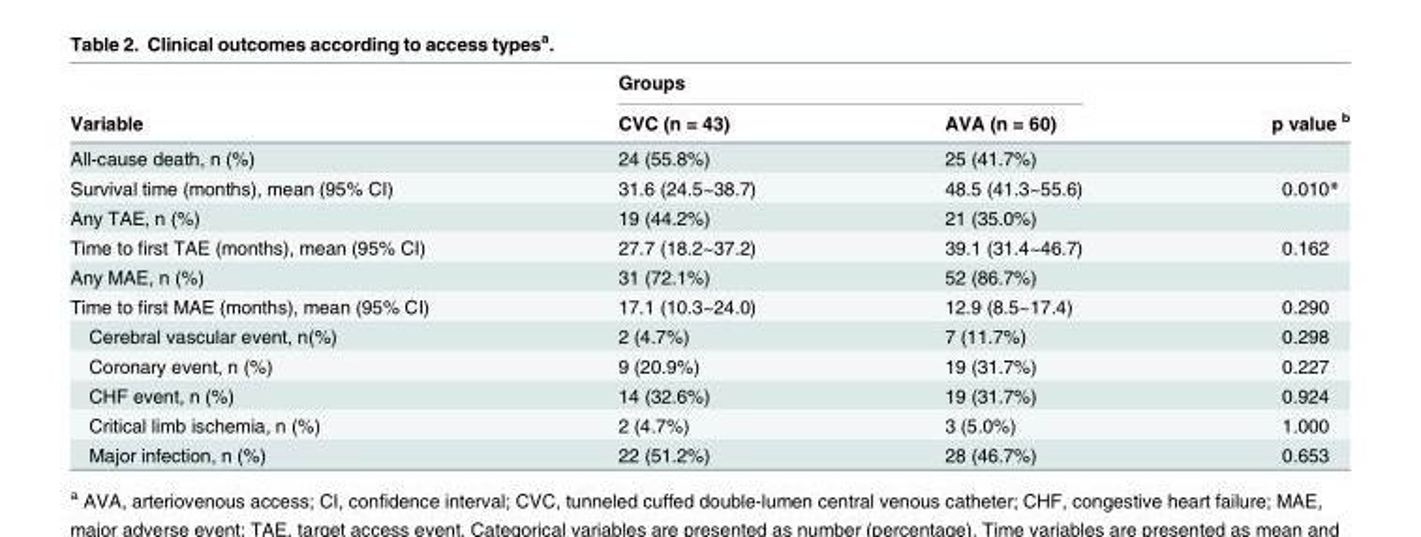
<table><thead><tr><td rowspan="2">Variable</td><td colspan="2">Groups</td><td rowspan="2">p value <sup>b</sup></td></tr><tr><td>CVC (n = 43)</td><td>AVA (n = 60)</td></tr></thead><tbody><tr><td>All-cause death, n (%)</td><td>24 (55.8%)</td><td>25 (41.7%)</td><td></td></tr><tr><td>Survival time (months), mean (95% CI)</td><td>31.6 (24.5~38.7)</td><td>48.5 (41.3~55.6)</td><td>0.010*</td></tr><tr><td>Any TAE, n (%)</td><td>19 (44.2%)</td><td>21 (35.0%)</td><td></td></tr><tr><td>Time to first TAE (months), mean (95% CI)</td><td>27.7 (18.2~37.2)</td><td>39.1 (31.4~46.7)</td><td>0.162</td></tr><tr><td>Any MAE, n (%)</td><td>31 (72.1%)</td><td>52 (86.7%)</td><td></td></tr><tr><td>Time to first MAE (months), mean (95% CI)</td><td>17.1 (10.3~24.0)</td><td>12.9 (8.5~17.4)</td><td>0.290</td></tr><tr><td>Cerebral vascular event, n(%)</td><td>2 (4.7%)</td><td>7 (11.7%)</td><td>0.298</td></tr><tr><td>Coronary event, n (%)</td><td>9 (20.9%)</td><td>19 (31.7%)</td><td>0.227</td></tr><tr><td>CHF event, n (%)</td><td>14 (32.6%)</td><td>19 (31.7%)</td><td>0.924</td></tr><tr><td>Critical limb ischemia, n (%)</td><td>2 (4.7%)</td><td>3 (5.0%)</td><td>1.000</td></tr><tr><td>Major infection, n (%)</td><td>22 (51.2%)</td><td>28 (46.7%)</td><td>0.653</td></tr></tbody></table>